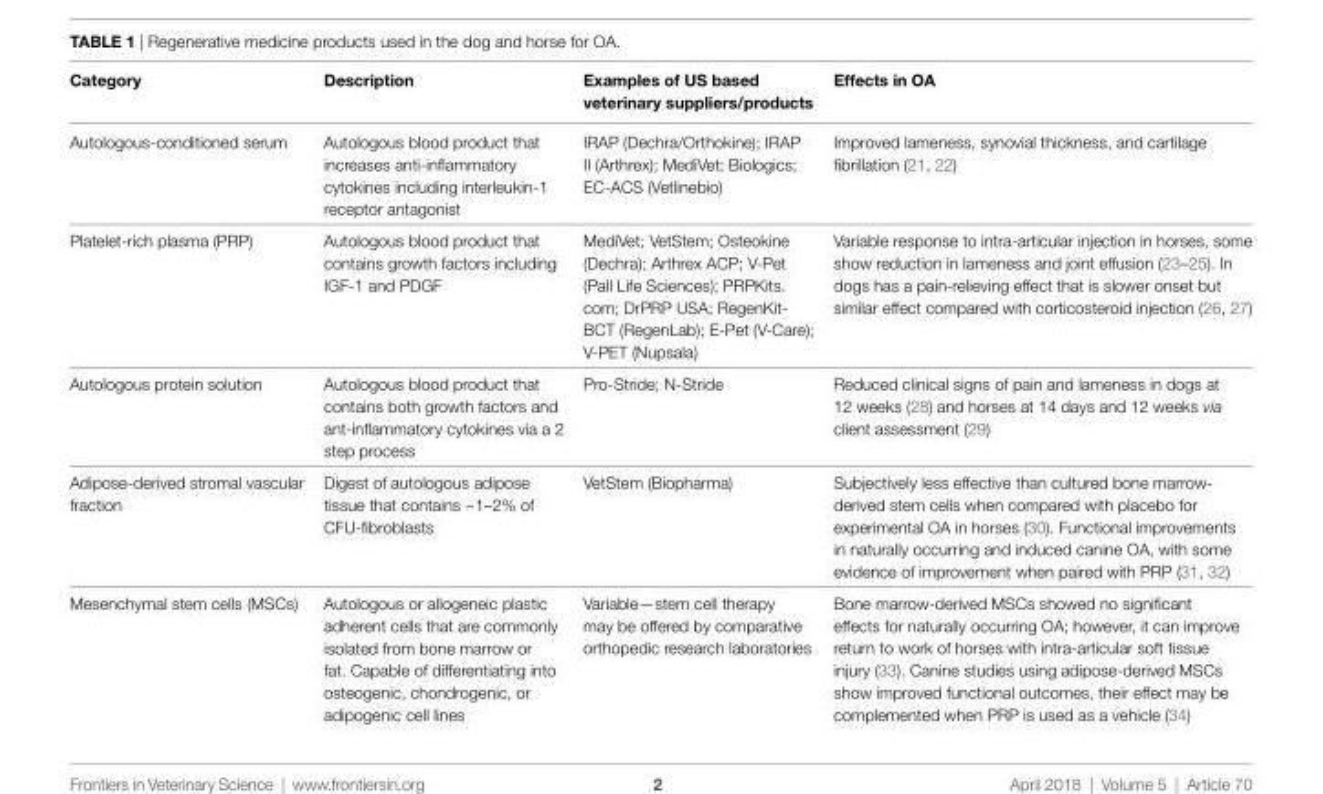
<table><thead><tr><td>Category</td><td>Description</td><td>examples of US based veterinary suppliers/products</td><td>effects in OA</td></tr></thead><tbody><tr><td>Autologous-conditioned serum</td><td>Autologous blood product that increases anti-inflammatory cytokines including interleukin-1 receptor antagonist</td><td>IRAP (Dechra/Orthokine); IRAP II (Arthrex); MediVet; Biologics; EC-ACS (Vetlinebio)</td><td>Improved lameness, synovial thickness, and cartilage fibrillation (21, 22)</td></tr><tr><td>Platelet-rich plasma (PRP)</td><td>Autologous blood product that contains growth factors including IGF-1 and PDGF</td><td>MediVet; VetStem; Osteokine (Dechra); Arthrex ACP; V-Pet (Pall Life Sciences); PRPKits. com; DrPRP USA; RegenKit- BCT (RegenLab); E-Pet (V-Care); V-PET (Nupsala)</td><td>Variable response to intra-articular injection in horses, some show reduction in lameness and joint effusion (23–25). In dogs has a pain-relieving effect that is slower onset but similar effect compared with corticosteroid injection (26, 27)</td></tr><tr><td>Autologous protein solution</td><td>Autologous blood product that contains both growth factors and ant-inflammatory cytokines via a 2 step process</td><td>Pro-Stride; N-Stride</td><td>Reduced clinical signs of pain and lameness in dogs at 12 weeks (28) and horses at 14 days and 12 weeks via client assessment (29)</td></tr><tr><td>Adipose-derived stromal vascular fraction</td><td>Digest of autologous adipose tissue that contains ~1–2% of CFU-fibroblasts</td><td>VetStem (Biopharma)</td><td>Subjectively less effective than cultured bone marrow- derived stem cells when compared with placebo for experimental OA in horses (30). Functional improvements in naturally occurring and induced canine OA, with some evidence of improvement when paired with PRP (31, 32)</td></tr><tr><td>Mesenchymal stem cells (MSCs)</td><td>Autologous or allogeneic plastic adherent cells that are commonly isolated from bone marrow or fat. Capable of differentiating into osteogenic, chondrogenic, or adipogenic cell lines</td><td>Variable—stem cell therapy may be offered by comparative orthopedic research laboratories</td><td>Bone marrow-derived MSCs showed no significant effects for naturally occurring OA; however, it can improve return to work of horses with intra-articular soft tissue injury (33). Canine studies using adipose-derived MSCs show improved functional outcomes, their effect may be complemented when PRP is used as a vehicle (34)</td></tr></tbody></table>